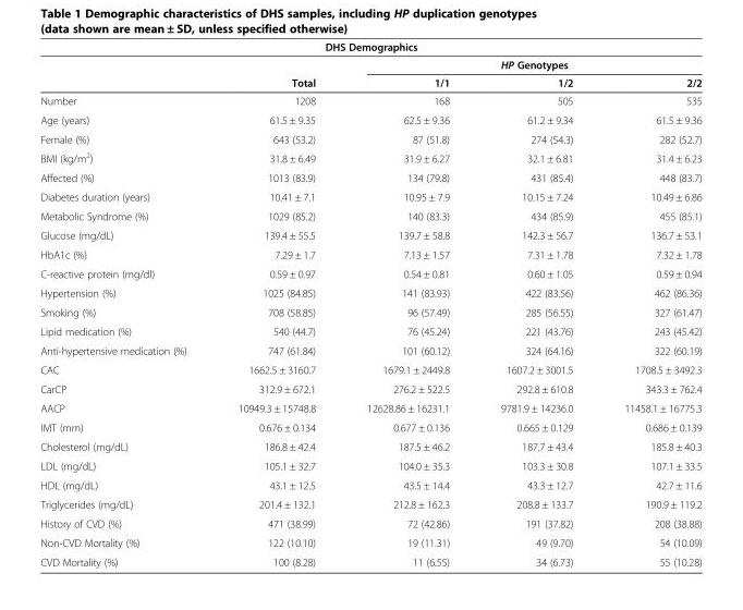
<table><thead><tr><td colspan="5">DHS Demographics</td></tr><tr><td rowspan="2"></td><td rowspan="2">Total</td><td colspan="3">HP Genotypes</td></tr><tr><td>1/1</td><td>1/2</td><td>2/2</td></tr></thead><tbody><tr><td>Number</td><td>1208</td><td>168</td><td>505</td><td>535</td></tr><tr><td>Age (years)</td><td>61.5 ± 9.35</td><td>62.5 ± 9.36</td><td>61.2 ± 9.34</td><td>61.5 ± 9.36</td></tr><tr><td>Female (%)</td><td>643 (53.2)</td><td>87 (51.8)</td><td>274 (54.3)</td><td>282 (52.7)</td></tr><tr><td>BMI (kg/m<sup>2</sup>)</td><td>31.8 ± 6.49</td><td>31.9 ± 6.27</td><td>32.1 ± 6.81</td><td>31.4 ± 6.23</td></tr><tr><td>Affected (%)</td><td>1013 (83.9)</td><td>134 (79.8)</td><td>431 (85.4)</td><td>448 (83.7)</td></tr><tr><td>Diabetes duration (years)</td><td>10.41 ± 7.1</td><td>10.95 ± 7.9</td><td>10.15 ± 7.24</td><td>10.49 ± 6.86</td></tr><tr><td>Metabolic Syndrome (%)</td><td>1029 (85.2)</td><td>140 (83.3)</td><td>434 (85.9)</td><td>455 (85.1)</td></tr><tr><td>Glucose (mg/dL)</td><td>139.4 ± 55.5</td><td>139.7 ± 58.8</td><td>142.3 ± 56.7</td><td>136.7 ± 53.1</td></tr><tr><td>HbA1c (%)</td><td>7.29 ± 1.7</td><td>7.13 ± 1.57</td><td>7.31 ± 1.78</td><td>7.32 ± 1.78</td></tr><tr><td>C-reactive protein (mg/dl)</td><td>0.59 ± 0.97</td><td>0.54 ± 0.81</td><td>0.60 ± 1.05</td><td>0.59 ± 0.94</td></tr><tr><td>Hypertension (%)</td><td>1025 (84.85)</td><td>141 (83.93)</td><td>422 (83.56)</td><td>462 (86.36)</td></tr><tr><td>Smoking (%)</td><td>708 (58.85)</td><td>96 (57.49)</td><td>285 (56.55)</td><td>327 (61.47)</td></tr><tr><td>Lipid medication (%)</td><td>540 (44.7)</td><td>76 (45.24)</td><td>221 (43.76)</td><td>243 (45.42)</td></tr><tr><td>Anti-hypertensive medication (%)</td><td>747 (61.84)</td><td>101 (60.12)</td><td>324 (64.16)</td><td>322 (60.19)</td></tr><tr><td>CAC</td><td>1662.5 ± 3160.7</td><td>1679.1 ± 2449.8</td><td>1607.2 ± 3001.5</td><td>1708.5 ± 3492.3</td></tr><tr><td>CarCP</td><td>312.9 ± 672.1</td><td>276.2 ± 522.5</td><td>292.8 ± 610.8</td><td>343.3 ± 762.4</td></tr><tr><td>AACP</td><td>10949.3 ± 15748.8</td><td>12628.86 ± 16231.1</td><td>9781.9 ± 14236.0</td><td>11458.1 ± 16775.3</td></tr><tr><td>IMT (mm)</td><td>0.676 ± 0.134</td><td>0.677 ± 0.136</td><td>0.665 ± 0.129</td><td>0.686 ± 0.139</td></tr><tr><td>Cholesterol (mg/dL)</td><td>186.8 ± 42.4</td><td>187.5 ± 46.2</td><td>187.7 ± 43.4</td><td>185.8 ± 40.3</td></tr><tr><td>LDL (mg/dL)</td><td>105.1 ± 32.7</td><td>104.0 ± 35.3</td><td>103.3 ± 30.8</td><td>107.1 ± 33.5</td></tr><tr><td>HDL (mg/dL)</td><td>43.1 ± 12.5</td><td>43.5 ± 14.4</td><td>43.3 ± 12.7</td><td>42.7 ± 11.6</td></tr><tr><td>Triglycerides (mg/dL)</td><td>201.4 ± 132.1</td><td>212.8 ± 162.3</td><td>208.8 ± 133.7</td><td>190.9 ± 119.2</td></tr><tr><td>History of CVD (%)</td><td>471 (38.99)</td><td>72 (42.86)</td><td>191 (37.82)</td><td>208 (38.88)</td></tr><tr><td>Non-CVD Mortality (%)</td><td>122 (10.10)</td><td>19 (11.31)</td><td>49 (9.70)</td><td>54 (10.09)</td></tr><tr><td>CVD Mortality (%)</td><td>100 (8.28)</td><td>11 (6.55)</td><td>34 (6.73)</td><td>55 (10.28)</td></tr></tbody></table>